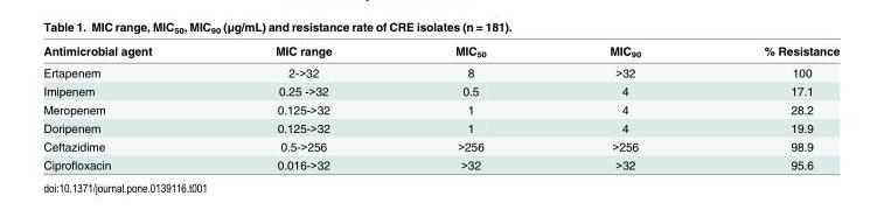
<table><thead><tr><td>Antimicrobial agent</td><td>MIC range</td><td>MIC<sub>50</sub></td><td>MIC<sub>90</sub></td><td>% Resistance</td></tr></thead><tbody><tr><td>Ertapenem</td><td>2-&gt;32</td><td>8</td><td>&gt;32</td><td>100</td></tr><tr><td>Imipenem</td><td>0.25 -&gt;32</td><td>0.5</td><td>4</td><td>17.1</td></tr><tr><td>Meropenem</td><td>0.125-&gt;32</td><td>1</td><td>4</td><td>28.2</td></tr><tr><td>Doripenem</td><td>0.125-&gt;32</td><td>1</td><td>4</td><td>19.9</td></tr><tr><td>Ceftazidime</td><td>0.5-&gt;256</td><td>&gt;256</td><td>&gt;256</td><td>98.9</td></tr><tr><td>Ciprofloxacin</td><td>0.016-&gt;32</td><td>&gt;32</td><td>&gt;32</td><td>95.6</td></tr></tbody></table>